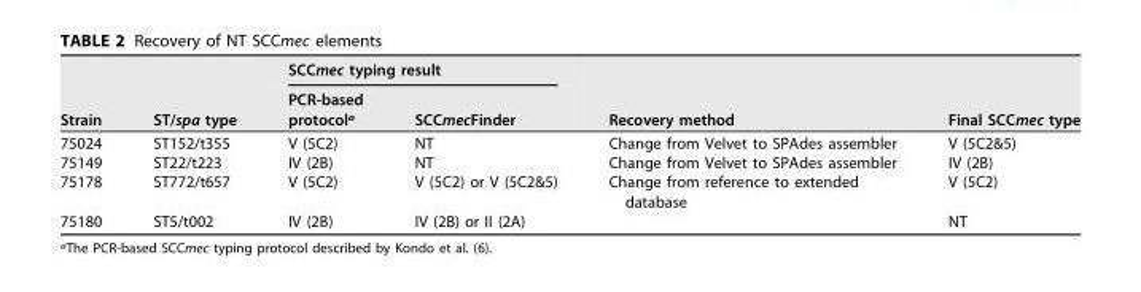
<table><thead><tr><td rowspan="2">Strain</td><td rowspan="2">ST/spa type</td><td colspan="2">SCCmec typing result</td><td rowspan="2">Recovery method</td><td rowspan="2">Final SCCmec type</td></tr><tr><td>PCR-based protocol<sup>a</sup></td><td>SCCmecFinder</td></tr></thead><tbody><tr><td>75024</td><td>ST152/t355</td><td>V (5C2)</td><td>NT</td><td>Change from Velvet to SPAdes assembler</td><td>V (5C2&amp;5)</td></tr><tr><td>75149</td><td>ST22/t223</td><td>IV (2B)</td><td>NT</td><td>Change from Velvet to SPAdes assembler</td><td>IV (2B)</td></tr><tr><td>75178</td><td>ST772/t657</td><td>V (5C2)</td><td>V (5C2) or V (5C2&amp;5)</td><td>Change from reference to extended database</td><td>V (5C2)</td></tr><tr><td>75180</td><td>ST5/t002</td><td>IV (2B)</td><td>IV (2B) or II (2A)</td><td></td><td>NT</td></tr></tbody></table>